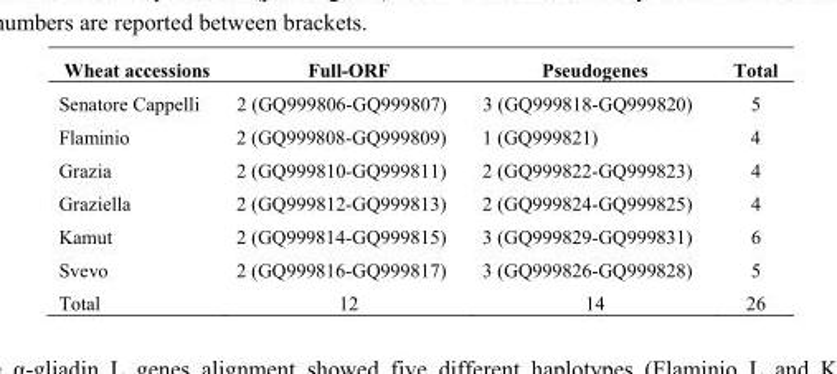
<table><thead><tr><td>Wheat accessions</td><td>Full-ORF</td><td>Pseudogenes</td><td>Total</td></tr></thead><tbody><tr><td>Senatore Cappelli</td><td>2 (GQ999806-GQ999807)</td><td>3 (GQ999818-GQ999820)</td><td>5</td></tr><tr><td>Flaminio</td><td>2 (GQ999808-GQ999809)</td><td>1 (GQ999821)</td><td>4</td></tr><tr><td>Grazia</td><td>2 (GQ999810-GQ999811)</td><td>2 (GQ999822-GQ999823)</td><td>4</td></tr><tr><td>Graziella</td><td>2 (GQ999812-GQ999813)</td><td>2 (GQ999824-GQ999825)</td><td>4</td></tr><tr><td>Kamut</td><td>2 (GQ999814-GQ999815)</td><td>3 (GQ999829-GQ999831)</td><td>6</td></tr><tr><td>Svevo</td><td>2 (GQ999816-GQ999817)</td><td>3 (GQ999826-GQ999828)</td><td>5</td></tr><tr><td>Total</td><td>12</td><td>14</td><td>26</td></tr></tbody></table>